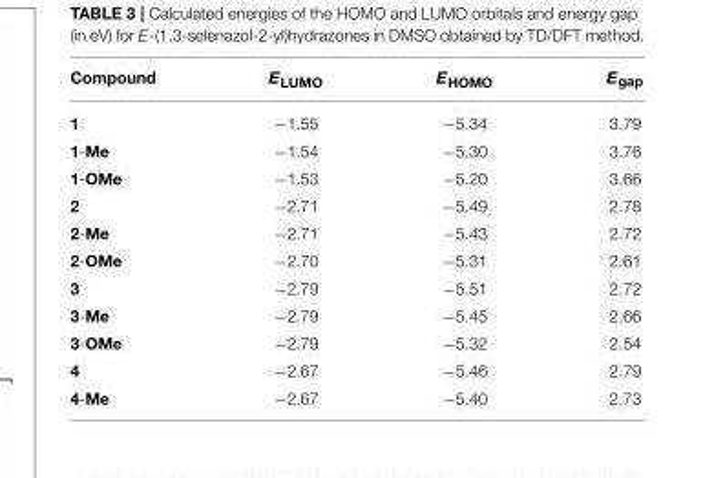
<table><thead><tr><td>Compound</td><td>E<sub>LUMO</sub></td><td>E<sub>HOMO</sub></td><td>E<sub>gap</sub></td></tr></thead><tbody><tr><td>1</td><td>−1.55</td><td>−5.34</td><td>3.79</td></tr><tr><td>1-Me</td><td>−1.54</td><td>−5.30</td><td>3.76</td></tr><tr><td>1-OMe</td><td>−1.53</td><td>−5.20</td><td>3.66</td></tr><tr><td>2</td><td>−2.71</td><td>−5.49</td><td>2.78</td></tr><tr><td>2-Me</td><td>−2.71</td><td>−5.43</td><td>2.72</td></tr><tr><td>2-OMe</td><td>−2.70</td><td>−5.31</td><td>2.61</td></tr><tr><td>3</td><td>−2.79</td><td>−5.51</td><td>2.72</td></tr><tr><td>3-Me</td><td>−2.79</td><td>−5.45</td><td>2.66</td></tr><tr><td>3-OMe</td><td>−2.79</td><td>−5.32</td><td>2.54</td></tr><tr><td>4</td><td>−2.67</td><td>−5.46</td><td>2.79</td></tr><tr><td>4-Me</td><td>−2.67</td><td>−5.40</td><td>2.73</td></tr></tbody></table>